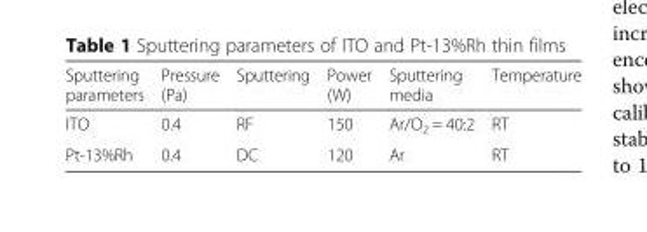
<table><thead><tr><td>Sputtering parameters</td><td>Pressure (Pa)</td><td>Sputtering</td><td>Power (W)</td><td>Sputtering media</td><td>Temperature</td></tr></thead><tbody><tr><td>ITO</td><td>0.4</td><td>RF</td><td>150</td><td>Ar/O<sub>2</sub> = 40:2</td><td>RT</td></tr><tr><td>Pt-13%Rh</td><td>0.4</td><td>DC</td><td>120</td><td>Ar</td><td>RT</td></tr></tbody></table>